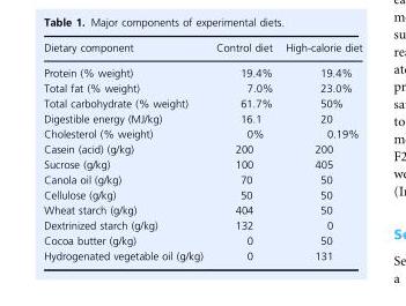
<table><thead><tr><td>Dietary component</td><td>Control diet</td><td>High-calorie diet</td></tr></thead><tbody><tr><td>Protein (% weight)</td><td>19.4%</td><td>19.4%</td></tr><tr><td>Total fat (% weight)</td><td>7.0%</td><td>23.0%</td></tr><tr><td>Total carbohydrate (% weight)</td><td>61.7%</td><td>50%</td></tr><tr><td>Digestible energy (MJ/kg)</td><td>16.1</td><td>20</td></tr><tr><td>Cholesterol (% weight)</td><td>0%</td><td>0.19%</td></tr><tr><td>Casein (acid) (g/kg)</td><td>200</td><td>200</td></tr><tr><td>Sucrose (g/kg)</td><td>100</td><td>405</td></tr><tr><td>Canola oil (g/kg)</td><td>70</td><td>50</td></tr><tr><td>Cellulose (g/kg)</td><td>50</td><td>50</td></tr><tr><td>Wheat starch (g/kg)</td><td>404</td><td>50</td></tr><tr><td>Dextrinized starch (g/kg)</td><td>132</td><td>0</td></tr><tr><td>Cocoa butter (g/kg)</td><td>0</td><td>50</td></tr><tr><td>Hydrogenated vegetable oil (g/kg)</td><td>0</td><td>131</td></tr></tbody></table>